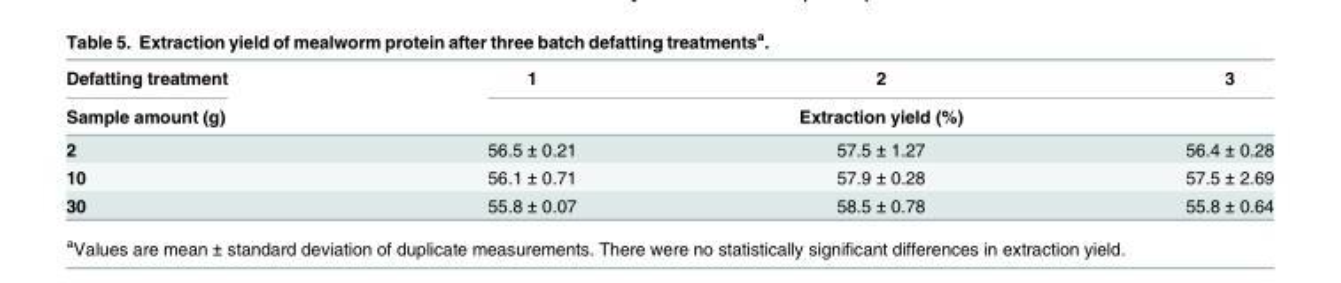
<table><thead><tr><td rowspan="2">Defatting treatment Sample amount (g)</td><td>1</td><td>2</td><td>3</td></tr><tr><td colspan="3">Extraction yield (%)</td></tr></thead><tbody><tr><td>2</td><td>56.5 ± 0.21</td><td>57.5 ± 1.27</td><td>56.4 ± 0.28</td></tr><tr><td>10</td><td>56.1 ± 0.71</td><td>57.9 ± 0.28</td><td>57.5 ± 2.69</td></tr><tr><td>30</td><td>55.8 ± 0.07</td><td>58.5 ± 0.78</td><td>55.8 ± 0.64</td></tr></tbody></table>